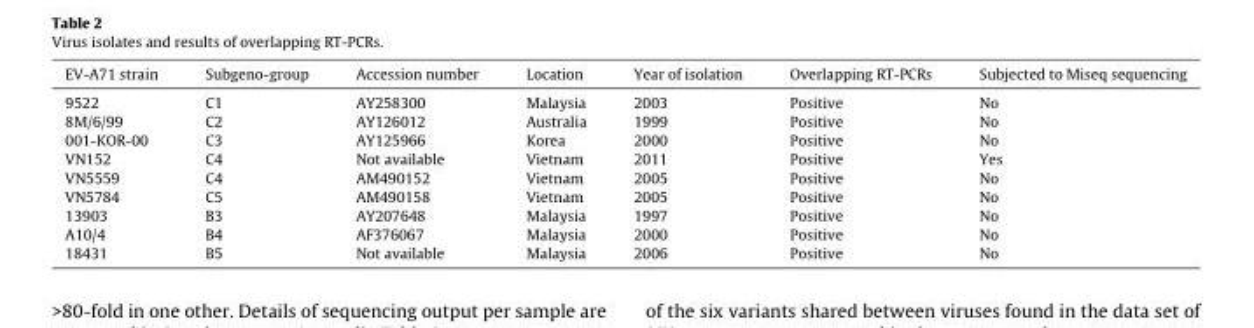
<table><thead><tr><td>EV-A71 strain</td><td>Subgeno-group</td><td>Accession number</td><td>Location</td><td>Year of isolation</td><td>Overlapping RT-PCRs</td><td>Subjected to Miseq sequencing</td></tr></thead><tbody><tr><td>9522</td><td>C1</td><td>AY258300</td><td>Malaysia</td><td>2003</td><td>Positive</td><td>No</td></tr><tr><td>8M/6/99</td><td>C2</td><td>AY126012</td><td>Australia</td><td>1999</td><td>Positive</td><td>No</td></tr><tr><td>001-KOR-00</td><td>C3</td><td>AY125966</td><td>Korea</td><td>2000</td><td>Positive</td><td>No</td></tr><tr><td>VN152</td><td>C4</td><td>Not available</td><td>Vietnam</td><td>2011</td><td>Positive</td><td>Yes</td></tr><tr><td>VN5559</td><td>C4</td><td>AM490152</td><td>Vietnam</td><td>2005</td><td>Positive</td><td>No</td></tr><tr><td>VN5784</td><td>C5</td><td>AM490158</td><td>Vietnam</td><td>2005</td><td>Positive</td><td>No</td></tr><tr><td>13903</td><td>B3</td><td>AY207648</td><td>Malaysia</td><td>1997</td><td>Positive</td><td>No</td></tr><tr><td>A10/4</td><td>B4</td><td>AF376067</td><td>Malaysia</td><td>2000</td><td>Positive</td><td>No</td></tr><tr><td>18431</td><td>B5</td><td>Not available</td><td>Malaysia</td><td>2006</td><td>Positive</td><td>No</td></tr></tbody></table>